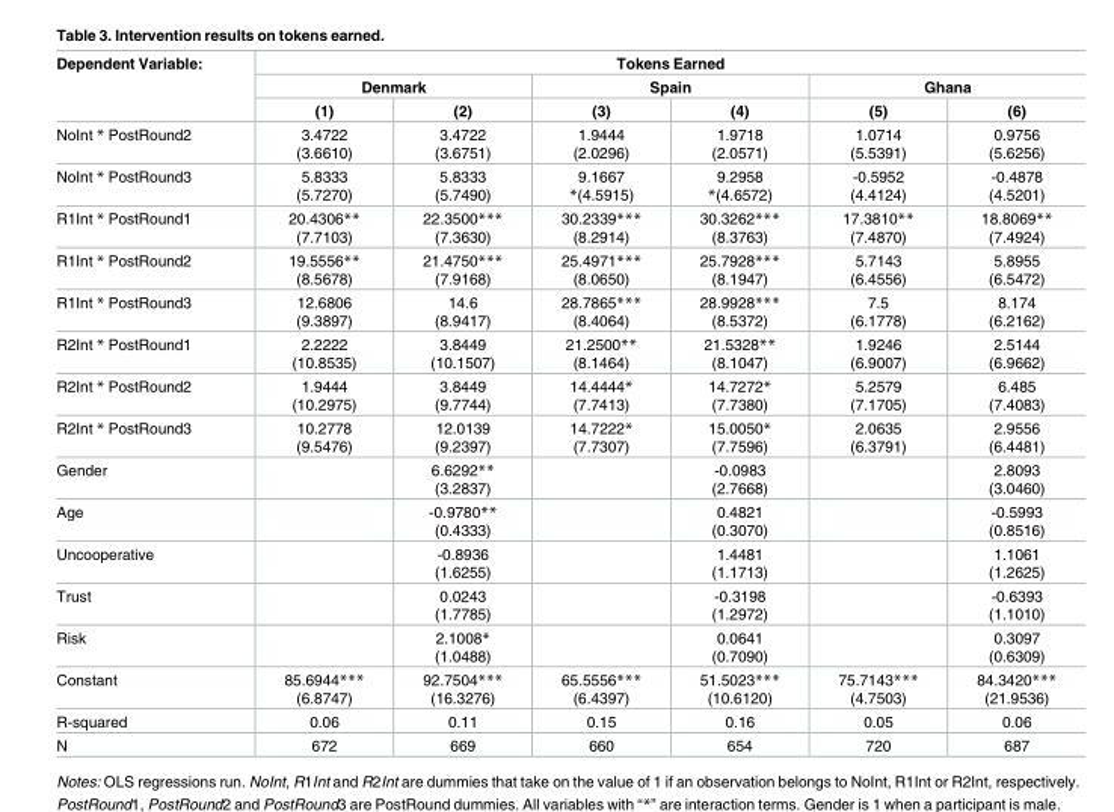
<table><thead><tr><td rowspan="3">Dependent Variable:</td><td colspan="6">Tokens Earned</td></tr><tr><td colspan="2">Denmark</td><td colspan="2">Spain</td><td colspan="2">Ghana</td></tr><tr><td>(1)</td><td>(2)</td><td>(3)</td><td>(4)</td><td>(5)</td><td>(6)</td></tr></thead><tbody><tr><td>NoInt * PostRound2</td><td>3.4722 (3.6610)</td><td>3.4722 (3.6751)</td><td>1.9444 (2.0296)</td><td>1.9718 (2.0571)</td><td>1.0714 (5.5391)</td><td>0.9756 (5.6256)</td></tr><tr><td>NoInt * PostRound3</td><td>5.8333 (5.7270)</td><td>5.8333 (5.7490)</td><td>9.1667 *(4.5915)</td><td>9.2958 *(4.6572)</td><td>-0.5952 (4.4124)</td><td>-0.4878 (4.5201)</td></tr><tr><td>R1Int * PostRound1</td><td>20.4306** (7.7103)</td><td>22.3500*** (7.3630)</td><td>30.2339*** (8.2914)</td><td>30.3262*** (8.3763)</td><td>17.3810** (7.4870)</td><td>18.8069** (7.4924)</td></tr><tr><td>R1Int * PostRound2</td><td>19.5556** (8.5678)</td><td>21.4750*** (7.9168)</td><td>25.4971*** (8.0650)</td><td>25.7928*** (8.1947)</td><td>5.7143 (6.4556)</td><td>5.8955 (6.5472)</td></tr><tr><td>R1Int * PostRound3</td><td>12.6806 (9.3897)</td><td>14.6 (8.9417)</td><td>28.7865*** (8.4064)</td><td>28.9928*** (8.5372)</td><td>7.5 (6.1778)</td><td>8.174 (6.2162)</td></tr><tr><td>R2Int * PostRound1</td><td>2.2222 (10.8535)</td><td>3.8449 (10.1507)</td><td>21.2500** (8.1464)</td><td>21.5328** (8.1047)</td><td>1.9246 (6.9007)</td><td>2.5144 (6.9662)</td></tr><tr><td>R2Int * PostRound2</td><td>1.9444 (10.2975)</td><td>3.8449 (9.7744)</td><td>14.4444* (7.7413)</td><td>14.7272* (7.7380)</td><td>5.2579 (7.1705)</td><td>6.485 (7.4083)</td></tr><tr><td>R2Int * PostRound3</td><td>10.2778 (9.5476)</td><td>12.0139 (9.2397)</td><td>14.7222* (7.7307)</td><td>15.0050* (7.7596)</td><td>2.0635 (6.3791)</td><td>2.9556 (6.4481)</td></tr><tr><td>Gender</td><td></td><td>6.6292** (3.2837)</td><td></td><td>-0.0983 (2.7668)</td><td></td><td>2.8093 (3.0460)</td></tr><tr><td>Age</td><td></td><td>-0.9780** (0.4333)</td><td></td><td>0.4821 (0.3070)</td><td></td><td>-0.5993 (0.8516)</td></tr><tr><td>Uncooperative</td><td></td><td>-0.8936 (1.6255)</td><td></td><td>1.4481 (1.1713)</td><td></td><td>1.1061 (1.2625)</td></tr><tr><td>Trust</td><td></td><td>0.0243 (1.7785)</td><td></td><td>-0.3198 (1.2972)</td><td></td><td>-0.6393 (1.1010)</td></tr><tr><td>Risk</td><td></td><td>2.1008* (1.0488)</td><td></td><td>0.0641 (0.7090)</td><td></td><td>0.3097 (0.6309)</td></tr><tr><td>Constant</td><td>85.6944*** (6.8747)</td><td>92.7504*** (16.3276)</td><td>65.5556*** (6.4397)</td><td>51.5023*** (10.6120)</td><td>75.7143*** (4.7503)</td><td>84.3420*** (21.9536)</td></tr><tr><td>R-squared</td><td>0.06</td><td>0.11</td><td>0.15</td><td>0.16</td><td>0.05</td><td>0.06</td></tr><tr><td>N</td><td>672</td><td>669</td><td>660</td><td>654</td><td>720</td><td>687</td></tr></tbody></table>